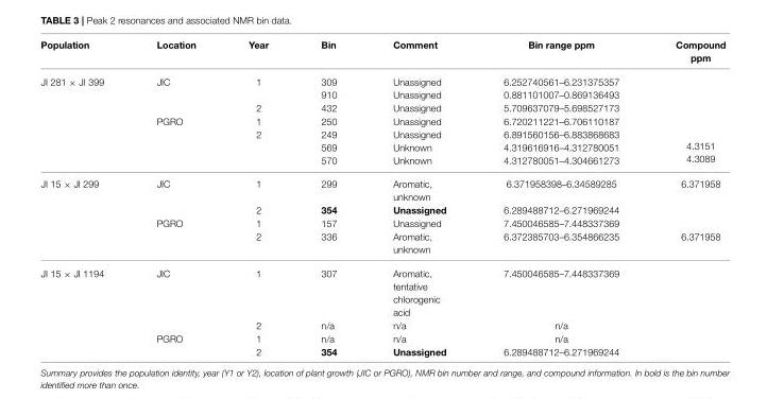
<table><thead><tr><td>Population</td><td>Location</td><td>Year</td><td>Bin</td><td>Comment</td><td>Bin range ppm</td><td>Compound ppm</td></tr></thead><tbody><tr><td rowspan="4">JI 281 × JI 399</td><td>JIC</td><td>1</td><td>309 910</td><td>Unassigned Unassigned</td><td>6.252740561–6.231375357 0.881101007–0.869136493</td><td></td></tr><tr><td></td><td>2</td><td>432</td><td>Unassigned</td><td>5.709637079–5.698527173</td><td></td></tr><tr><td>PGRO</td><td>1</td><td>250</td><td>Unassigned</td><td>6.720211221–6.706110187</td><td></td></tr><tr><td></td><td>2</td><td>249 569 570</td><td>Unassigned Unknown Unknown</td><td>6.891560156–6.883868683 4.319616916–4.312780051 4.312780051–4.304661273</td><td>4.3151 4.3089</td></tr><tr><td rowspan="4">JI 15 × JI 299</td><td>JIC</td><td>1</td><td>299</td><td>Aromatic, unknown</td><td>6.371958398–6.34589285</td><td>6.371958</td></tr><tr><td></td><td>2</td><td>354</td><td>Unassigned</td><td>6.289488712–6.271969244</td><td></td></tr><tr><td>PGRO</td><td>1</td><td>157</td><td>Unassigned</td><td>7.450046585–7.448337369</td><td></td></tr><tr><td></td><td>2</td><td>336</td><td>Aromatic, unknown</td><td>6.372385703–6.354866235</td><td>6.371958</td></tr><tr><td rowspan="4">JI 15 × JI 1194</td><td>JIC</td><td>1</td><td>307</td><td>Aromatic, tentative chlorogenic acid</td><td>7.450046585–7.448337369</td><td></td></tr><tr><td></td><td>2</td><td>n/a</td><td>n/a</td><td>n/a</td><td></td></tr><tr><td>PGRO</td><td>1</td><td>n/a</td><td>n/a</td><td>n/a</td><td></td></tr><tr><td></td><td>2</td><td>354</td><td>Unassigned</td><td>6.289488712–6.271969244</td><td></td></tr></tbody></table>